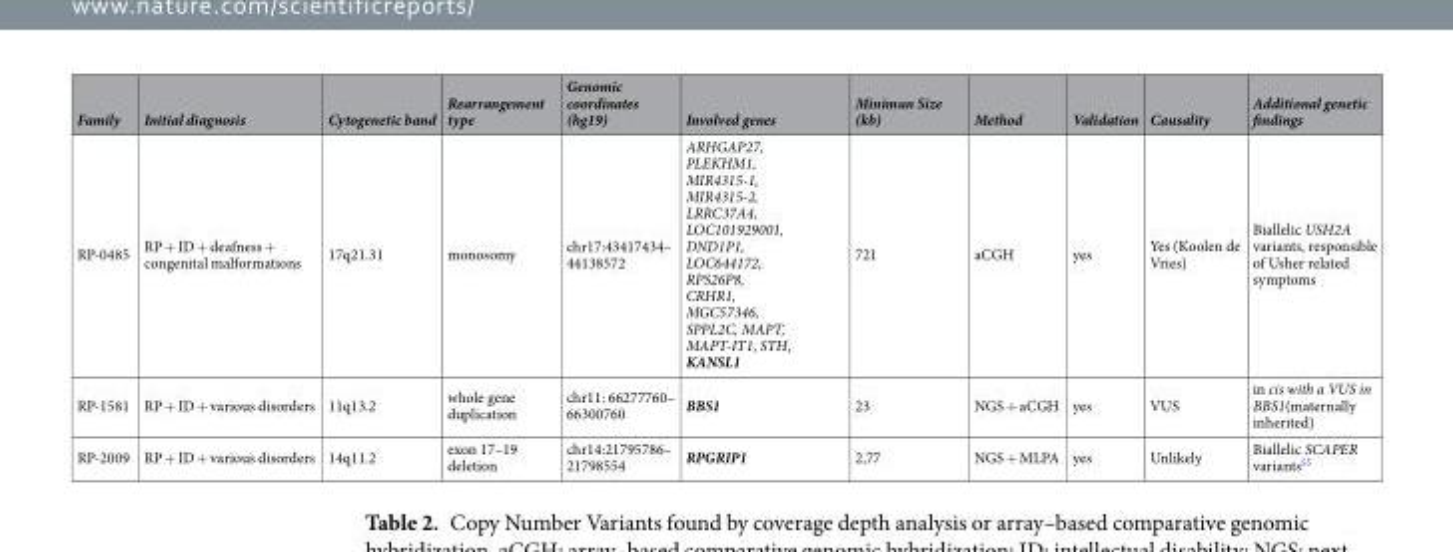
<table><thead><tr><td>Family</td><td>Initial diagnosis</td><td>Cytogenetic band</td><td>Rearrangement type</td><td>Genomic coordinates (hg19)</td><td>Involved genes</td><td>Minimun Size (kb)</td><td>Method</td><td>Validation</td><td>Causality</td><td>Additional genetic findings</td></tr></thead><tbody><tr><td>RP-0485</td><td>RP + ID + deafness + congenital malformations</td><td>17q21.31</td><td>monosomy</td><td>chr17:43417434– 44138572</td><td>ARHGAP27, PLEKHM1, MIR4315-1, MIR4315-2, LRRC37A4, LOC101929001, DND1P1, LOC644172, RPS26P8, CRHR1, MGC57346, SPPL2C, MAPT, MAPT-IT1, STH, KANSL1</td><td>721</td><td>aCGH</td><td>yes</td><td>Yes (Koolen de Vries)</td><td>Biallelic USH2A variants, responsible of Usher related symptoms</td></tr><tr><td>RP-1581</td><td>RP + ID + various disorders</td><td>11q13.2</td><td>whole gene duplication</td><td>chr11: 66277760– 66300760</td><td>BBS1</td><td>23</td><td>NGS + aCGH</td><td>yes</td><td>VUS</td><td>in cis with a VUS in BBS1(maternally inherited)</td></tr><tr><td>RP-2009</td><td>RP + ID + various disorders</td><td>14q11.2</td><td>exon 17–19 deletion</td><td>chr14:21795786– 21798554</td><td>RPGRIP1</td><td>2,77</td><td>NGS + MLPA</td><td>yes</td><td>Unlikely</td><td>Biallelic SCAPER variants<sup>55</sup></td></tr></tbody></table>